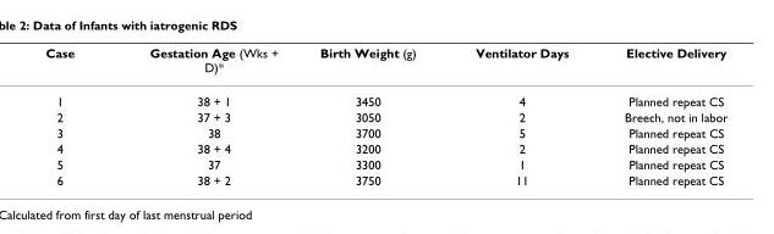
<table><thead><tr><td>Case</td><td>Gestation Age (Wks + D)*</td><td>Birth Weight (g)</td><td>Ventilator Days</td><td>Elective Delivery</td></tr></thead><tbody><tr><td>1</td><td>38 + 1</td><td>3450</td><td>4</td><td>Planned repeat CS</td></tr><tr><td>2</td><td>37 + 3</td><td>3050</td><td>2</td><td>Breech, not in labor</td></tr><tr><td>3</td><td>38</td><td>3700</td><td>5</td><td>Planned repeat CS</td></tr><tr><td>4</td><td>38 + 4</td><td>3200</td><td>2</td><td>Planned repeat CS</td></tr><tr><td>5</td><td>37</td><td>3300</td><td>1</td><td>Planned repeat CS</td></tr><tr><td>6</td><td>38 + 2</td><td>3750</td><td>11</td><td>Planned repeat CS</td></tr></tbody></table>